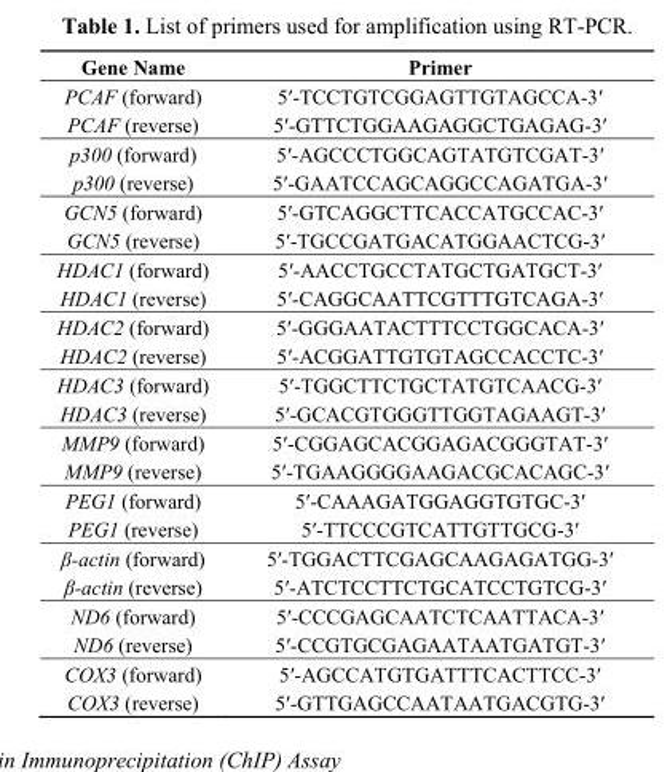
<table><thead><tr><td>Gene Name</td><td>Primer</td></tr></thead><tbody><tr><td>PCAF (forward)</td><td>5′-TCCTGTCGGAGTTGTAGCCA-3′</td></tr><tr><td>PCAF (reverse)</td><td>5′-GTTCTGGAAGAGGCTGAGAG-3′</td></tr><tr><td>p300 (forward)</td><td>5′-AGCCCTGGCAGTATGTCGAT-3′</td></tr><tr><td>p300 (reverse)</td><td>5′-GAATCCAGCAGGCCAGATGA-3′</td></tr><tr><td>GCN5 (forward)</td><td>5′-GTCAGGCTTCACCATGCCAC-3′</td></tr><tr><td>GCN5 (reverse)</td><td>5′-TGCCGATGACATGGAACTCG-3′</td></tr><tr><td>HDAC1 (forward)</td><td>5′-AACCTGCCTATGCTGATGCT-3′</td></tr><tr><td>HDAC1 (reverse)</td><td>5′-CAGGCAATTCGTTTGTCAGA-3′</td></tr><tr><td>HDAC2 (forward)</td><td>5′-GGGAATACTTTCCTGGCACA-3′</td></tr><tr><td>HDAC2 (reverse)</td><td>5′-ACGGATTGTGTAGCCACCTC-3′</td></tr><tr><td>HDAC3 (forward)</td><td>5′-TGGCTTCTGCTATGTCAACG-3′</td></tr><tr><td>HDAC3 (reverse)</td><td>5′-GCACGTGGGTTGGTAGAAGT-3′</td></tr><tr><td>MMP9 (forward)</td><td>5′-CGGAGCACGGAGACGGGTAT-3′</td></tr><tr><td>MMP9 (reverse)</td><td>5′-TGAAGGGGAAGACGCACAGC-3′</td></tr><tr><td>PEG1 (forward)</td><td>5′-CAAAGATGGAGGTGTGC-3′</td></tr><tr><td>PEG1 (reverse)</td><td>5′-TTCCCGTCATTGTTGCG-3′</td></tr><tr><td>β-actin (forward)</td><td>5′-TGGACTTCGAGCAAGAGATGG-3′</td></tr><tr><td>β-actin (reverse)</td><td>5′-ATCTCCTTCTGCATCCTGTCG-3′</td></tr><tr><td>ND6 (forward)</td><td>5′-CCCGAGCAATCTCAATTACA-3′</td></tr><tr><td>ND6 (reverse)</td><td>5′-CCGTGCGAGAATAATGATGT-3′</td></tr><tr><td>COX3 (forward)</td><td>5′-AGCCATGTGATTTCACTTCC-3′</td></tr><tr><td>COX3 (reverse)</td><td>5′-GTTGAGCCAATAATGACGTG-3′</td></tr></tbody></table>